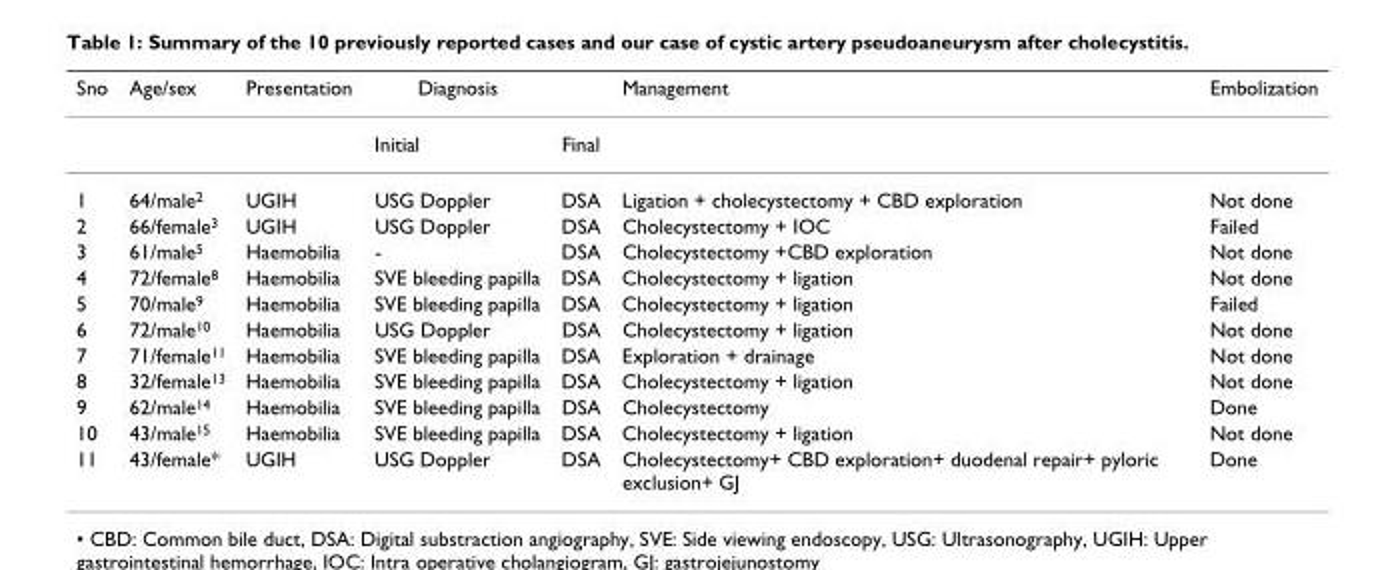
<table><thead><tr><td>Sno</td><td>Age/sex</td><td>Presentation</td><td>Diagnosis</td><td></td><td>Management</td><td>Embolization</td></tr></thead><tbody><tr><td></td><td></td><td></td><td>Initial</td><td>Final</td><td></td><td></td></tr><tr><td>1</td><td>64/male2</td><td>UGIH</td><td>USG Doppler</td><td>DSA</td><td>Ligation + cholecystectomy + CBD exploration</td><td>Not done</td></tr><tr><td>2</td><td>66/female3</td><td>UGIH</td><td>USG Doppler</td><td>DSA</td><td>Cholecystectomy + IOC</td><td>Failed</td></tr><tr><td>3</td><td>61/male5</td><td>Haemobilia</td><td>-</td><td>DSA</td><td>Cholecystectomy +CBD exploration</td><td>Not done</td></tr><tr><td>4</td><td>72/female8</td><td>Haemobilia</td><td>SVE bleeding papilla</td><td>DSA</td><td>Cholecystectomy + ligation</td><td>Not done</td></tr><tr><td>5</td><td>70/male9</td><td>Haemobilia</td><td>SVE bleeding papilla</td><td>DSA</td><td>Cholecystectomy + ligation</td><td>Failed</td></tr><tr><td>6</td><td>72/male10</td><td>Haemobilia</td><td>USG Doppler</td><td>DSA</td><td>Cholecystectomy + ligation</td><td>Not done</td></tr><tr><td>7</td><td>71/female11</td><td>Haemobilia</td><td>SVE bleeding papilla</td><td>DSA</td><td>Exploration + drainage</td><td>Not done</td></tr><tr><td>8</td><td>32/female13</td><td>Haemobilia</td><td>SVE bleeding papilla</td><td>DSA</td><td>Cholecystectomy + ligation</td><td>Not done</td></tr><tr><td>9</td><td>62/male14</td><td>Haemobilia</td><td>SVE bleeding papilla</td><td>DSA</td><td>Cholecystectomy</td><td>Done</td></tr><tr><td>10</td><td>43/male15</td><td>Haemobilia</td><td>SVE bleeding papilla</td><td>DSA</td><td>Cholecystectomy + ligation</td><td>Not done</td></tr><tr><td>11</td><td>43/female*</td><td>UGIH</td><td>USG Doppler</td><td>DSA</td><td>Cholecystectomy+ CBD exploration+ duodenal repair+ pyloric exclusion+ GJ</td><td>Done</td></tr></tbody></table>